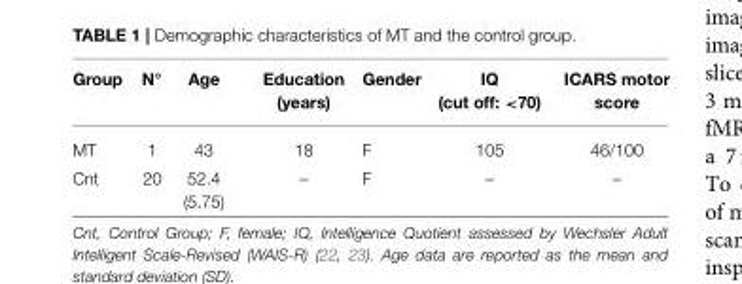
<table><thead><tr><td>Group</td><td>N◦</td><td>Age</td><td>Education (years)</td><td>Gender</td><td>IQ (cut off: &lt;70)</td><td>ICARS motor score</td></tr></thead><tbody><tr><td>MT</td><td>1</td><td>43</td><td>18</td><td>F</td><td>105</td><td>46/100</td></tr><tr><td>Cnt</td><td>20</td><td>52.4 (5.75)</td><td>–</td><td>F</td><td>–</td><td>–</td></tr></tbody></table>